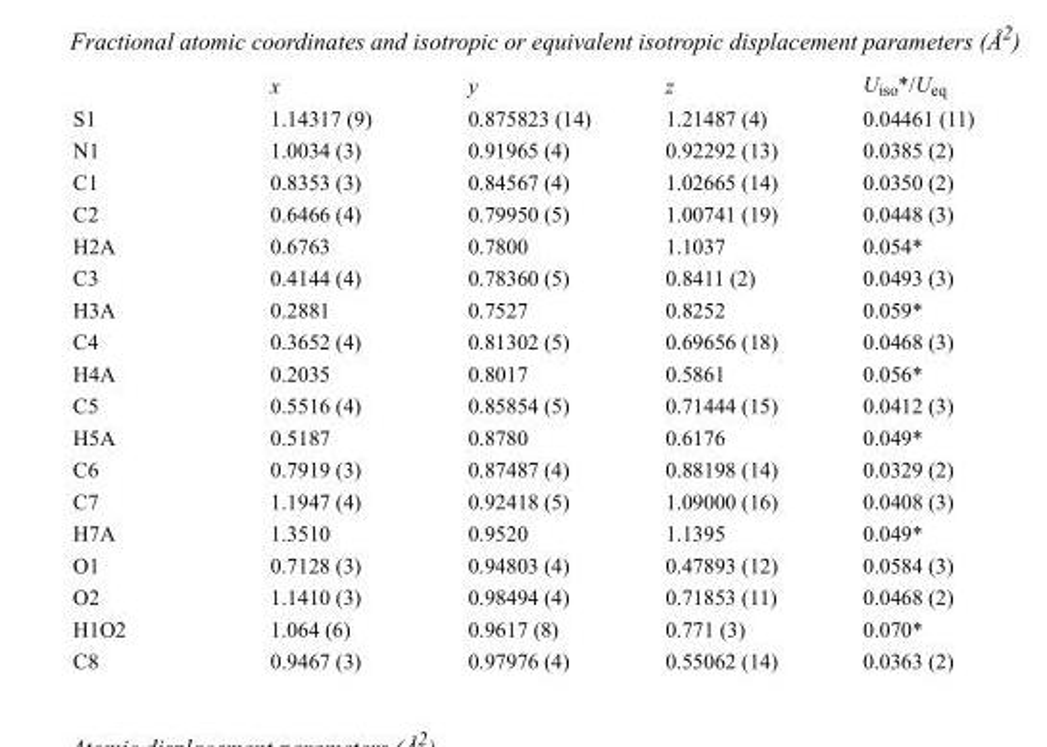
<table><thead><tr><td></td><td>x</td><td>y</td><td>z</td><td>U<sub>iso</sub>*/U<sub>eq</sub></td></tr></thead><tbody><tr><td>S1</td><td>1.14317 (9)</td><td>0.875823 (14)</td><td>1.21487 (4)</td><td>0.04461 (11)</td></tr><tr><td>N1</td><td>1.0034 (3)</td><td>0.91965 (4)</td><td>0.92292 (13)</td><td>0.0385 (2)</td></tr><tr><td>C1</td><td>0.8353 (3)</td><td>0.84567 (4)</td><td>1.02665 (14)</td><td>0.0350 (2)</td></tr><tr><td>C2</td><td>0.6466 (4)</td><td>0.79950 (5)</td><td>1.00741 (19)</td><td>0.0448 (3)</td></tr><tr><td>H2A</td><td>0.6763</td><td>0.7800</td><td>1.1037</td><td>0.054*</td></tr><tr><td>C3</td><td>0.4144 (4)</td><td>0.78360 (5)</td><td>0.8411 (2)</td><td>0.0493 (3)</td></tr><tr><td>H3A</td><td>0.2881</td><td>0.7527</td><td>0.8252</td><td>0.059*</td></tr><tr><td>C4</td><td>0.3652 (4)</td><td>0.81302 (5)</td><td>0.69656 (18)</td><td>0.0468 (3)</td></tr><tr><td>H4A</td><td>0.2035</td><td>0.8017</td><td>0.5861</td><td>0.056*</td></tr><tr><td>C5</td><td>0.5516 (4)</td><td>0.85854 (5)</td><td>0.71444 (15)</td><td>0.0412 (3)</td></tr><tr><td>H5A</td><td>0.5187</td><td>0.8780</td><td>0.6176</td><td>0.049*</td></tr><tr><td>C6</td><td>0.7919 (3)</td><td>0.87487 (4)</td><td>0.88198 (14)</td><td>0.0329 (2)</td></tr><tr><td>C7</td><td>1.1947 (4)</td><td>0.92418 (5)</td><td>1.09000 (16)</td><td>0.0408 (3)</td></tr><tr><td>H7A</td><td>1.3510</td><td>0.9520</td><td>1.1395</td><td>0.049*</td></tr><tr><td>O1</td><td>0.7128 (3)</td><td>0.94803 (4)</td><td>0.47893 (12)</td><td>0.0584 (3)</td></tr><tr><td>O2</td><td>1.1410 (3)</td><td>0.98494 (4)</td><td>0.71853 (11)</td><td>0.0468 (2)</td></tr><tr><td>H1O2</td><td>1.064 (6)</td><td>0.9617 (8)</td><td>0.771 (3)</td><td>0.070*</td></tr><tr><td>C8</td><td>0.9467 (3)</td><td>0.97976 (4)</td><td>0.55062 (14)</td><td>0.0363 (2)</td></tr></tbody></table>